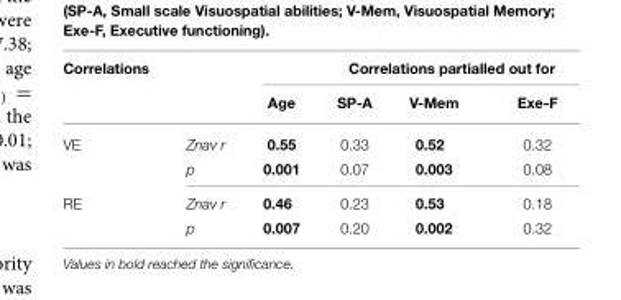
<table><thead><tr><td rowspan="2">Correlations</td><td rowspan="2"></td><td rowspan="2">Age</td><td colspan="3">Correlations partialled out for</td></tr><tr><td>SP-A</td><td>V-Mem</td><td>Exe-F</td></tr></thead><tbody><tr><td rowspan="2">VE</td><td>Znav r</td><td>0.55</td><td>0.33</td><td>0.52</td><td>0.32</td></tr><tr><td>p</td><td>0.001</td><td>0.07</td><td>0.003</td><td>0.08</td></tr><tr><td rowspan="2">RE</td><td>Znav r</td><td>0.46</td><td>0.23</td><td>0.53</td><td>0.18</td></tr><tr><td>p</td><td>0.007</td><td>0.20</td><td>0.002</td><td>0.32</td></tr></tbody></table>